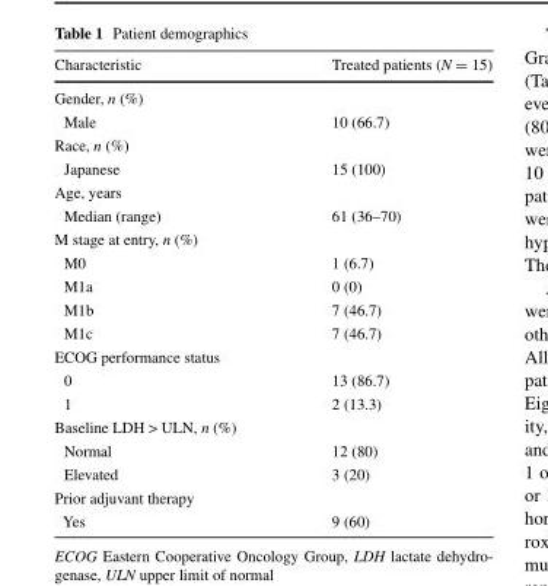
<table><thead><tr><td>Characteristic</td><td>Treated patients (N = 15)</td></tr></thead><tbody><tr><td colspan="2">Gender, n (%)</td></tr><tr><td>Male</td><td>10 (66.7)</td></tr><tr><td colspan="2">Race, n (%)</td></tr><tr><td>Japanese</td><td>15 (100)</td></tr><tr><td colspan="2">Age, years</td></tr><tr><td>Median (range)</td><td>61 (36–70)</td></tr><tr><td colspan="2">M stage at entry, n (%)</td></tr><tr><td>M0</td><td>1 (6.7)</td></tr><tr><td>M1a</td><td>0 (0)</td></tr><tr><td>M1b</td><td>7 (46.7)</td></tr><tr><td>M1c</td><td>7 (46.7)</td></tr><tr><td colspan="2">ECOG performance status</td></tr><tr><td>0</td><td>13 (86.7)</td></tr><tr><td>1</td><td>2 (13.3)</td></tr><tr><td colspan="2">Baseline LDH &gt; ULN, n (%)</td></tr><tr><td>Normal</td><td>12 (80)</td></tr><tr><td>Elevated</td><td>3 (20)</td></tr><tr><td colspan="2">Prior adjuvant therapy</td></tr><tr><td>Yes</td><td>9 (60)</td></tr></tbody></table>